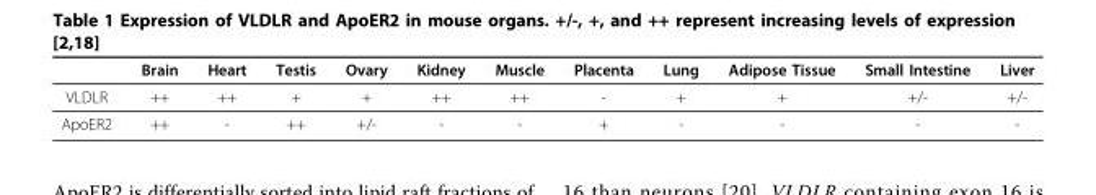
<table><thead><tr><td></td><td>Brain</td><td>Heart</td><td>Testis</td><td>Ovary</td><td>Kidney</td><td>Muscle</td><td>Placenta</td><td>Lung</td><td>Adipose Tissue</td><td>Small Intestine</td><td>Liver</td></tr></thead><tbody><tr><td>VLDLR</td><td>++</td><td>++</td><td>+</td><td>+</td><td>++</td><td>++</td><td>-</td><td>+</td><td>+</td><td>+/-</td><td>+/-</td></tr><tr><td>ApoER2</td><td>++</td><td>-</td><td>++</td><td>+/-</td><td>-</td><td>-</td><td>+</td><td>-</td><td>-</td><td>-</td><td>-</td></tr></tbody></table>